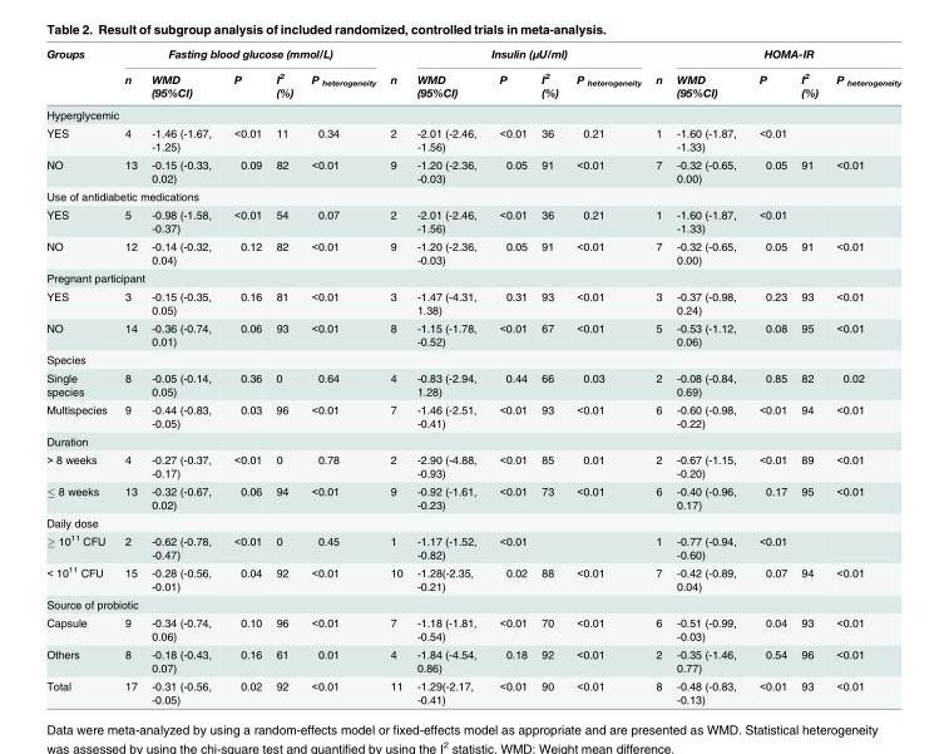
<table><thead><tr><td rowspan="2">Groups</td><td colspan="5">Fasting blood glucose (mmol/L)</td><td rowspan="2">n</td><td colspan="4">Insulin (μU/ml)</td><td rowspan="2">n</td><td colspan="4">HOMA-IR</td></tr><tr><td>n</td><td>WMD (95%CI)</td><td>P</td><td>I<sup>2</sup> (%)</td><td>P <sub>heterogeneity</sub></td><td>WMD (95%CI)</td><td>P</td><td>I<sup>2</sup> (%)</td><td>P <sub>heterogeneity</sub></td><td>WMD (95%CI)</td><td>P</td><td>I<sup>2</sup> (%)</td><td>P <sub>heterogeneity</sub></td></tr></thead><tbody><tr><td colspan="16">Hyperglycemic</td></tr><tr><td>YES</td><td>4</td><td>-1.46 (-1.67, -1.25)</td><td>&lt;0.01</td><td>11</td><td>0.34</td><td>2</td><td>-2.01 (-2.46, -1.56)</td><td>&lt;0.01</td><td>36</td><td>0.21</td><td>1</td><td>-1.60 (-1.87, -1.33)</td><td>&lt;0.01</td><td></td><td></td></tr><tr><td>NO</td><td>13</td><td>-0.15 (-0.33, 0.02)</td><td>0.09</td><td>82</td><td>&lt;0.01</td><td>9</td><td>-1.20 (-2.36, -0.03)</td><td>0.05</td><td>91</td><td>&lt;0.01</td><td>7</td><td>-0.32 (-0.65, 0.00)</td><td>0.05</td><td>91</td><td>&lt;0.01</td></tr><tr><td colspan="16">Use of antidiabetic medications</td></tr><tr><td>YES</td><td>5</td><td>-0.98 (-1.58, -0.37)</td><td>&lt;0.01</td><td>54</td><td>0.07</td><td>2</td><td>-2.01 (-2.46, -1.56)</td><td>&lt;0.01</td><td>36</td><td>0.21</td><td>1</td><td>-1.60 (-1.87, -1.33)</td><td>&lt;0.01</td><td></td><td></td></tr><tr><td>NO</td><td>12</td><td>-0.14 (-0.32, 0.04)</td><td>0.12</td><td>82</td><td>&lt;0.01</td><td>9</td><td>-1.20 (-2.36, -0.03)</td><td>0.05</td><td>91</td><td>&lt;0.01</td><td>7</td><td>-0.32 (-0.65, 0.00)</td><td>0.05</td><td>91</td><td>&lt;0.01</td></tr><tr><td colspan="16">Pregnant participant</td></tr><tr><td>YES</td><td>3</td><td>-0.15 (-0.35, 0.05)</td><td>0.16</td><td>81</td><td>&lt;0.01</td><td>3</td><td>-1.47 (-4.31, 1.38)</td><td>0.31</td><td>93</td><td>&lt;0.01</td><td>3</td><td>-0.37 (-0.98, 0.24)</td><td>0.23</td><td>93</td><td>&lt;0.01</td></tr><tr><td>NO</td><td>14</td><td>-0.36 (-0.74, 0.01)</td><td>0.06</td><td>93</td><td>&lt;0.01</td><td>8</td><td>-1.15 (-1.78, -0.52)</td><td>&lt;0.01</td><td>67</td><td>&lt;0.01</td><td>5</td><td>-0.53 (-1.12, 0.06)</td><td>0.08</td><td>95</td><td>&lt;0.01</td></tr><tr><td colspan="16">Species</td></tr><tr><td>Single species</td><td>8</td><td>-0.05 (-0.14, 0.05)</td><td>0.36</td><td>0</td><td>0.64</td><td>4</td><td>-0.83 (-2.94, 1.28)</td><td>0.44</td><td>66</td><td>0.03</td><td>2</td><td>-0.08 (-0.84, 0.69)</td><td>0.85</td><td>82</td><td>0.02</td></tr><tr><td>Multispecies</td><td>9</td><td>-0.44 (-0.83, -0.05)</td><td>0.03</td><td>96</td><td>&lt;0.01</td><td>7</td><td>-1.46 (-2.51, -0.41)</td><td>&lt;0.01</td><td>93</td><td>&lt;0.01</td><td>6</td><td>-0.60 (-0.98, -0.22)</td><td>&lt;0.01</td><td>94</td><td>&lt;0.01</td></tr><tr><td colspan="16">Duration</td></tr><tr><td>&gt; 8 weeks</td><td>4</td><td>-0.27 (-0.37, -0.17)</td><td>&lt;0.01</td><td>0</td><td>0.78</td><td>2</td><td>-2.90 (-4.88, -0.93)</td><td>&lt;0.01</td><td>85</td><td>0.01</td><td>2</td><td>-0.67 (-1.15, -0.20)</td><td>&lt;0.01</td><td>89</td><td>&lt;0.01</td></tr><tr><td>≤ 8 weeks</td><td>13</td><td>-0.32 (-0.67, 0.02)</td><td>0.06</td><td>94</td><td>&lt;0.01</td><td>9</td><td>-0.92 (-1.61, -0.23)</td><td>&lt;0.01</td><td>73</td><td>&lt;0.01</td><td>6</td><td>-0.40 (-0.96, 0.17)</td><td>0.17</td><td>95</td><td>&lt;0.01</td></tr><tr><td colspan="16">Daily dose</td></tr><tr><td>≥ 10<sup>11</sup> CFU</td><td>2</td><td>-0.62 (-0.78, -0.47)</td><td>&lt;0.01</td><td>0</td><td>0.45</td><td>1</td><td>-1.17 (-1.52, -0.82)</td><td>&lt;0.01</td><td></td><td></td><td>1</td><td>-0.77 (-0.94, -0.60)</td><td>&lt;0.01</td><td></td><td></td></tr><tr><td>&lt; 10<sup>11</sup> CFU</td><td>15</td><td>-0.28 (-0.56, -0.01)</td><td>0.04</td><td>92</td><td>&lt;0.01</td><td>10</td><td>-1.28(-2.35, -0.21)</td><td>0.02</td><td>88</td><td>&lt;0.01</td><td>7</td><td>-0.42 (-0.89, 0.04)</td><td>0.07</td><td>94</td><td>&lt;0.01</td></tr><tr><td colspan="16">Source of probiotic</td></tr><tr><td>Capsule</td><td>9</td><td>-0.34 (-0.74, 0.06)</td><td>0.10</td><td>96</td><td>&lt;0.01</td><td>7</td><td>-1.18 (-1.81, -0.54)</td><td>&lt;0.01</td><td>70</td><td>&lt;0.01</td><td>6</td><td>-0.51 (-0.99, -0.03)</td><td>0.04</td><td>93</td><td>&lt;0.01</td></tr><tr><td>Others</td><td>8</td><td>-0.18 (-0.43, 0.07)</td><td>0.16</td><td>61</td><td>0.01</td><td>4</td><td>-1.84 (-4.54, 0.86)</td><td>0.18</td><td>92</td><td>&lt;0.01</td><td>2</td><td>-0.35 (-1.46, 0.77)</td><td>0.54</td><td>96</td><td>&lt;0.01</td></tr><tr><td>Total</td><td>17</td><td>-0.31 (-0.56, -0.05)</td><td>0.02</td><td>92</td><td>&lt;0.01</td><td>11</td><td>-1.29(-2.17, -0.41)</td><td>&lt;0.01</td><td>90</td><td>&lt;0.01</td><td>8</td><td>-0.48 (-0.83, -0.13)</td><td>&lt;0.01</td><td>93</td><td>&lt;0.01</td></tr></tbody></table>